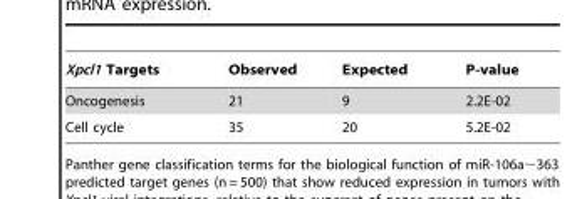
<table><thead><tr><td>Xpcl1 Targets</td><td>Observed</td><td>Expected</td><td>P-value</td></tr></thead><tbody><tr><td>Oncogenesis</td><td>21</td><td>9</td><td>2.2E-02</td></tr><tr><td>Cell cycle</td><td>35</td><td>20</td><td>5.2E-02</td></tr></tbody></table>